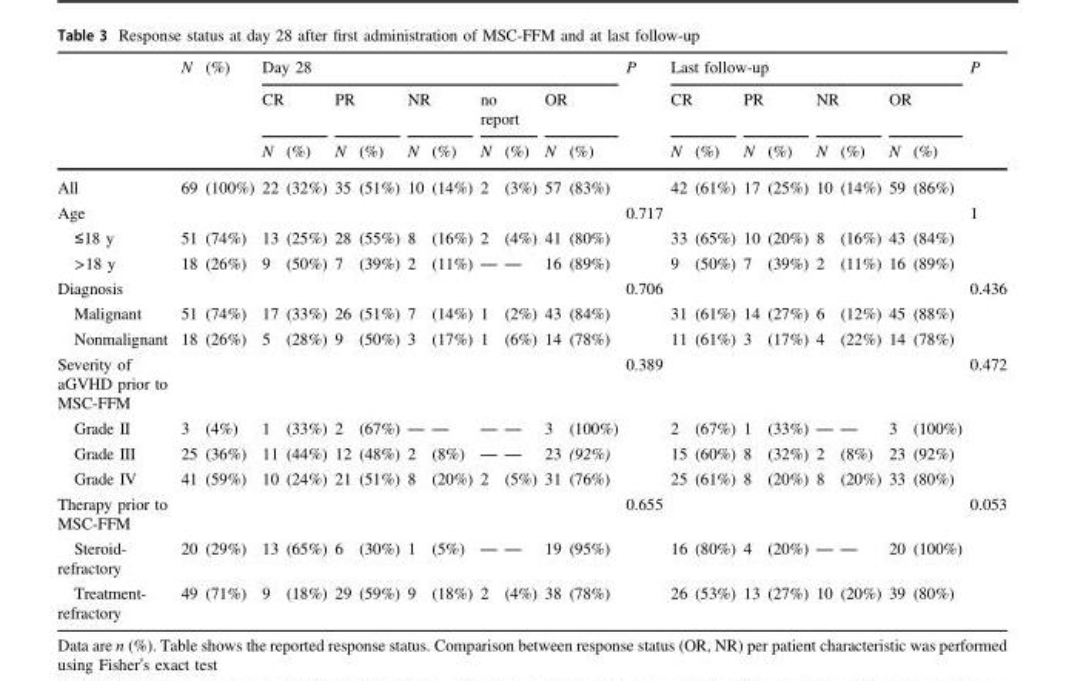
<table><thead><tr><td rowspan="3"></td><td rowspan="3">N</td><td rowspan="3">(%)</td><td colspan="10">Day 28</td><td rowspan="3">P</td><td colspan="8">Last follow-up</td><td rowspan="3">P</td></tr><tr><td colspan="2">CR</td><td colspan="2">PR</td><td colspan="2">NR</td><td colspan="2">no report</td><td colspan="2">OR</td><td colspan="2">CR</td><td colspan="2">PR</td><td colspan="2">NR</td><td colspan="2">OR</td></tr><tr><td>N</td><td>(%)</td><td>N</td><td>(%)</td><td>N</td><td>(%)</td><td>N</td><td>(%)</td><td>N</td><td>(%)</td><td>N</td><td>(%)</td><td>N</td><td>(%)</td><td>N</td><td>(%)</td><td>N</td><td>(%)</td></tr></thead><tbody><tr><td>All</td><td>69</td><td>(100%)</td><td>22</td><td>(32%)</td><td>35</td><td>(51%)</td><td>10</td><td>(14%)</td><td>2</td><td>(3%)</td><td>57</td><td>(83%)</td><td></td><td>42</td><td>(61%)</td><td>17</td><td>(25%)</td><td>10</td><td>(14%)</td><td>59</td><td>(86%)</td><td></td></tr><tr><td>Age</td><td></td><td></td><td></td><td></td><td></td><td></td><td></td><td></td><td></td><td></td><td></td><td></td><td>0.717</td><td></td><td></td><td></td><td></td><td></td><td></td><td></td><td></td><td>1</td></tr><tr><td>≤18 y</td><td>51</td><td>(74%)</td><td>13</td><td>(25%)</td><td>28</td><td>(55%)</td><td>8</td><td>(16%)</td><td>2</td><td>(4%)</td><td>41</td><td>(80%)</td><td></td><td>33</td><td>(65%)</td><td>10</td><td>(20%)</td><td>8</td><td>(16%)</td><td>43</td><td>(84%)</td><td></td></tr><tr><td>&gt;18 y</td><td>18</td><td>(26%)</td><td>9</td><td>(50%)</td><td>7</td><td>(39%)</td><td>2</td><td>(11%)</td><td>—</td><td>—</td><td>16</td><td>(89%)</td><td></td><td>9</td><td>(50%)</td><td>7</td><td>(39%)</td><td>2</td><td>(11%)</td><td>16</td><td>(89%)</td><td></td></tr><tr><td>Diagnosis</td><td></td><td></td><td></td><td></td><td></td><td></td><td></td><td></td><td></td><td></td><td></td><td></td><td>0.706</td><td></td><td></td><td></td><td></td><td></td><td></td><td></td><td></td><td>0.436</td></tr><tr><td>Malignant</td><td>51</td><td>(74%)</td><td>17</td><td>(33%)</td><td>26</td><td>(51%)</td><td>7</td><td>(14%)</td><td>1</td><td>(2%)</td><td>43</td><td>(84%)</td><td></td><td>31</td><td>(61%)</td><td>14</td><td>(27%)</td><td>6</td><td>(12%)</td><td>45</td><td>(88%)</td><td></td></tr><tr><td>Nonmalignant</td><td>18</td><td>(26%)</td><td>5</td><td>(28%)</td><td>9</td><td>(50%)</td><td>3</td><td>(17%)</td><td>1</td><td>(6%)</td><td>14</td><td>(78%)</td><td></td><td>11</td><td>(61%)</td><td>3</td><td>(17%)</td><td>4</td><td>(22%)</td><td>14</td><td>(78%)</td><td></td></tr><tr><td>Severity of aGVHD prior to MSC-FFM</td><td></td><td></td><td></td><td></td><td></td><td></td><td></td><td></td><td></td><td></td><td></td><td></td><td>0.389</td><td></td><td></td><td></td><td></td><td></td><td></td><td></td><td></td><td>0.472</td></tr><tr><td>Grade II</td><td>3</td><td>(4%)</td><td>1</td><td>(33%)</td><td>2</td><td>(67%)</td><td>—</td><td>—</td><td>—</td><td>—</td><td>3</td><td>(100%)</td><td></td><td>2</td><td>(67%)</td><td>1</td><td>(33%)</td><td>—</td><td>—</td><td>3</td><td>(100%)</td><td></td></tr><tr><td>Grade III</td><td>25</td><td>(36%)</td><td>11</td><td>(44%)</td><td>12</td><td>(48%)</td><td>2</td><td>(8%)</td><td>—</td><td>—</td><td>23</td><td>(92%)</td><td></td><td>15</td><td>(60%)</td><td>8</td><td>(32%)</td><td>2</td><td>(8%)</td><td>23</td><td>(92%)</td><td></td></tr><tr><td>Grade IV</td><td>41</td><td>(59%)</td><td>10</td><td>(24%)</td><td>21</td><td>(51%)</td><td>8</td><td>(20%)</td><td>2</td><td>(5%)</td><td>31</td><td>(76%)</td><td></td><td>25</td><td>(61%)</td><td>8</td><td>(20%)</td><td>8</td><td>(20%)</td><td>33</td><td>(80%)</td><td></td></tr><tr><td>Therapy prior to MSC-FFM</td><td></td><td></td><td></td><td></td><td></td><td></td><td></td><td></td><td></td><td></td><td></td><td></td><td>0.655</td><td></td><td></td><td></td><td></td><td></td><td></td><td></td><td></td><td>0.053</td></tr><tr><td>Steroid- refractory</td><td>20</td><td>(29%)</td><td>13</td><td>(65%)</td><td>6</td><td>(30%)</td><td>1</td><td>(5%)</td><td>—</td><td>—</td><td>19</td><td>(95%)</td><td></td><td>16</td><td>(80%)</td><td>4</td><td>(20%)</td><td>—</td><td>—</td><td>20</td><td>(100%)</td><td></td></tr><tr><td>Treatment- refractory</td><td>49</td><td>(71%)</td><td>9</td><td>(18%)</td><td>29</td><td>(59%)</td><td>9</td><td>(18%)</td><td>2</td><td>(4%)</td><td>38</td><td>(78%)</td><td></td><td>26</td><td>(53%)</td><td>13</td><td>(27%)</td><td>10</td><td>(20%)</td><td>39</td><td>(80%)</td><td></td></tr></tbody></table>